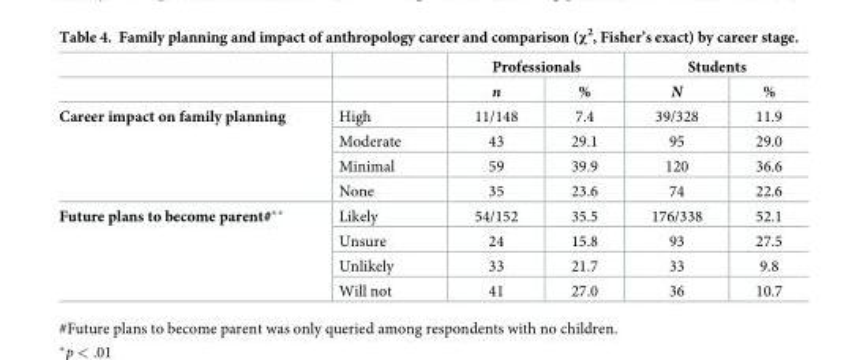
<table><thead><tr><td rowspan="2"></td><td rowspan="2"></td><td colspan="2">Professionals</td><td colspan="2">Students</td></tr><tr><td>n</td><td>%</td><td>N</td><td>%</td></tr></thead><tbody><tr><td rowspan="4">Career impact on family planning</td><td>High</td><td>11/148</td><td>7.4</td><td>39/328</td><td>11.9</td></tr><tr><td>Moderate</td><td>43</td><td>29.1</td><td>95</td><td>29.0</td></tr><tr><td>Minimal</td><td>59</td><td>39.9</td><td>120</td><td>36.6</td></tr><tr><td>None</td><td>35</td><td>23.6</td><td>74</td><td>22.6</td></tr><tr><td rowspan="4">Future plans to become parent#**</td><td>Likely</td><td>54/152</td><td>35.5</td><td>176/338</td><td>52.1</td></tr><tr><td>Unsure</td><td>24</td><td>15.8</td><td>93</td><td>27.5</td></tr><tr><td>Unlikely</td><td>33</td><td>21.7</td><td>33</td><td>9.8</td></tr><tr><td>Will not</td><td>41</td><td>27.0</td><td>36</td><td>10.7</td></tr></tbody></table>